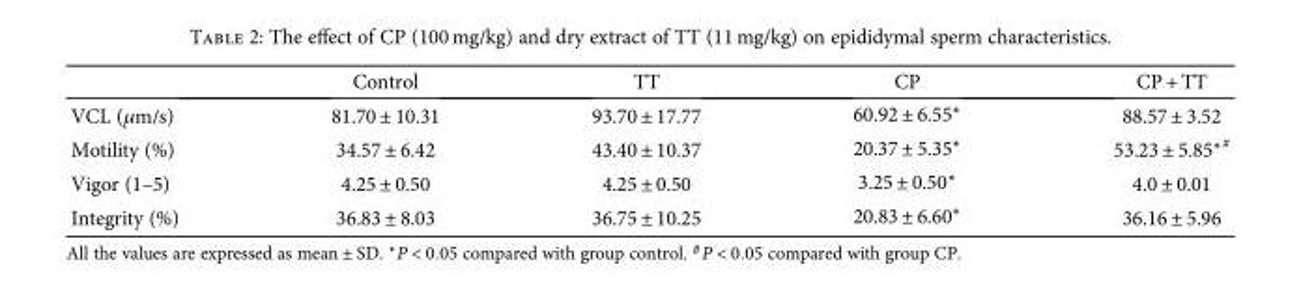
<table><thead><tr><td></td><td>Control</td><td>TT</td><td>CP</td><td>CP + TT</td></tr></thead><tbody><tr><td>VCL (μm/s)</td><td>81.70 ± 10.31</td><td>93.70 ± 17.77</td><td>60.92 ± 6.55∗</td><td>88.57 ± 3.52</td></tr><tr><td>Motility (%)</td><td>34.57 ± 6.42</td><td>43.40 ± 10.37</td><td>20.37 ± 5.35∗</td><td>53.23 ± 5.85<sup>∗#</sup></td></tr><tr><td>Vigor (1–5)</td><td>4.25 ± 0.50</td><td>4.25 ± 0.50</td><td>3.25 ± 0.50∗</td><td>4.0 ± 0.01</td></tr><tr><td>Integrity (%)</td><td>36.83 ± 8.03</td><td>36.75 ± 10.25</td><td>20.83 ± 6.60∗</td><td>36.16 ± 5.96</td></tr></tbody></table>